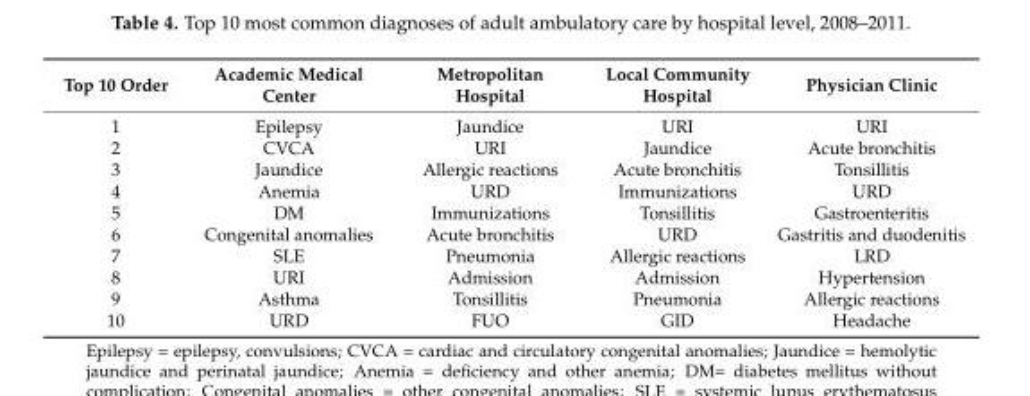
<table><thead><tr><td>Top 10 Order</td><td>Academic Medical Center</td><td>Metropolitan Hospital</td><td>Local Community Hospital</td><td>Physician Clinic</td></tr></thead><tbody><tr><td>1</td><td>Epilepsy</td><td>Jaundice</td><td>URI</td><td>URI</td></tr><tr><td>2</td><td>CVCA</td><td>URI</td><td>Jaundice</td><td>Acute bronchitis</td></tr><tr><td>3</td><td>Jaundice</td><td>Allergic reactions</td><td>Acute bronchitis</td><td>Tonsillitis</td></tr><tr><td>4</td><td>Anemia</td><td>URD</td><td>Immunizations</td><td>URD</td></tr><tr><td>5</td><td>DM</td><td>Immunizations</td><td>Tonsillitis</td><td>Gastroenteritis</td></tr><tr><td>6</td><td>Congenital anomalies</td><td>Acute bronchitis</td><td>URD</td><td>Gastritis and duodenitis</td></tr><tr><td>7</td><td>SLE</td><td>Pneumonia</td><td>Allergic reactions</td><td>LRD</td></tr><tr><td>8</td><td>URI</td><td>Admission</td><td>Admission</td><td>Hypertension</td></tr><tr><td>9</td><td>Asthma</td><td>Tonsillitis</td><td>Pneumonia</td><td>Allergic reactions</td></tr><tr><td>10</td><td>URD</td><td>FUO</td><td>GID</td><td>Headache</td></tr></tbody></table>